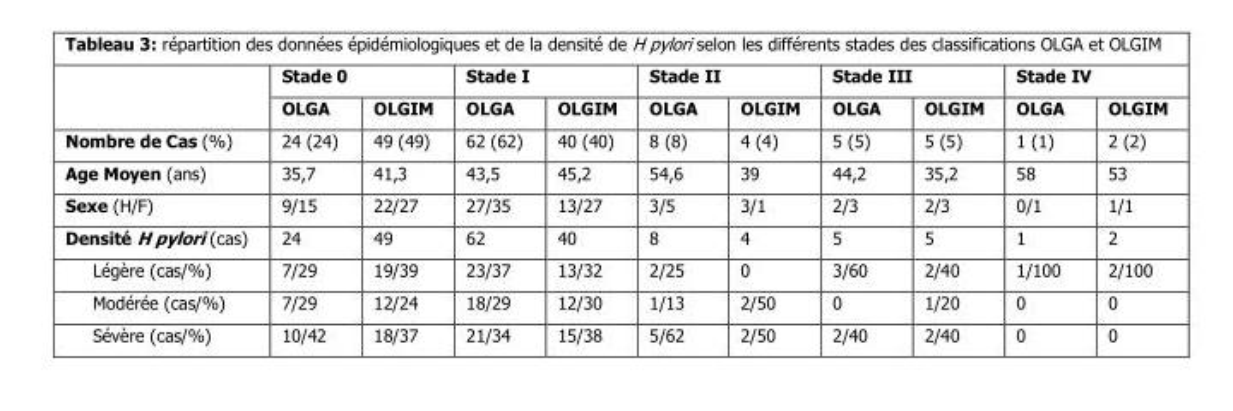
<table><thead><tr><td rowspan="2"></td><td colspan="2">Stade 0</td><td colspan="2">Stade I</td><td colspan="2">Stade II</td><td colspan="2">Stade III</td><td colspan="2">Stade IV</td></tr><tr><td>OLGA</td><td>OLGIM</td><td>OLGA</td><td>OLGIM</td><td>OLGA</td><td>OLGIM</td><td>OLGA</td><td>OLGIM</td><td>OLGA</td><td>OLGIM</td></tr></thead><tbody><tr><td>Nombre de Cas (%)</td><td>24 (24)</td><td>49 (49)</td><td>62 (62)</td><td>40 (40)</td><td>8 (8)</td><td>4 (4)</td><td>5 (5)</td><td>5 (5)</td><td>1 (1)</td><td>2 (2)</td></tr><tr><td>Age Moyen (ans)</td><td>35,7</td><td>41,3</td><td>43,5</td><td>45,2</td><td>54,6</td><td>39</td><td>44,2</td><td>35,2</td><td>58</td><td>53</td></tr><tr><td>Sexe (H/F)</td><td>9/15</td><td>22/27</td><td>27/35</td><td>13/27</td><td>3/5</td><td>3/1</td><td>2/3</td><td>2/3</td><td>0/1</td><td>1/1</td></tr><tr><td>Densité H pylori (cas)</td><td>24</td><td>49</td><td>62</td><td>40</td><td>8</td><td>4</td><td>5</td><td>5</td><td>1</td><td>2</td></tr><tr><td>Légère (cas/%)</td><td>7/29</td><td>19/39</td><td>23/37</td><td>13/32</td><td>2/25</td><td>0</td><td>3/60</td><td>2/40</td><td>1/100</td><td>2/100</td></tr><tr><td>Modérée (cas/%)</td><td>7/29</td><td>12/24</td><td>18/29</td><td>12/30</td><td>1/13</td><td>2/50</td><td>0</td><td>1/20</td><td>0</td><td>0</td></tr><tr><td>Sévère (cas/%)</td><td>10/42</td><td>18/37</td><td>21/34</td><td>15/38</td><td>5/62</td><td>2/50</td><td>2/40</td><td>2/40</td><td>0</td><td>0</td></tr></tbody></table>